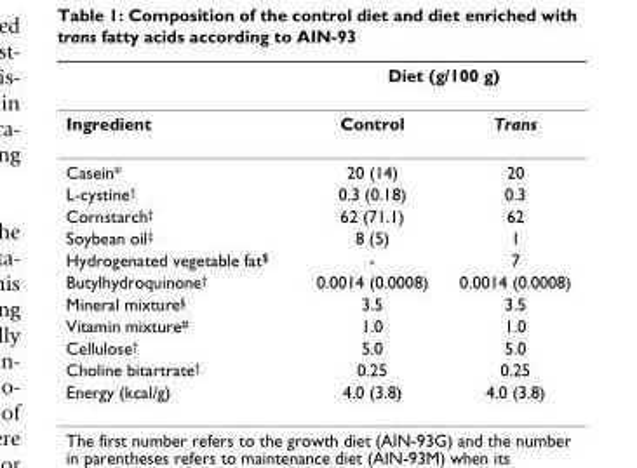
<table><thead><tr><td rowspan="2">Ingredient</td><td colspan="2">Diet (g/100 g)</td></tr><tr><td>Control</td><td>Trans</td></tr></thead><tbody><tr><td>Casein*</td><td>20 (14)</td><td>20</td></tr><tr><td>L-cystine<sup>†</sup></td><td>0.3 (0.18)</td><td>0.3</td></tr><tr><td>Cornstarch<sup>†</sup></td><td>62 (71.1)</td><td>62</td></tr><tr><td>Soybean oil<sup>‡</sup></td><td>8 (5)</td><td>1</td></tr><tr><td>Hydrogenated vegetable fat<sup>$</sup></td><td>-</td><td>7</td></tr><tr><td>Butylhydroquinone<sup>†</sup></td><td>0.0014 (0.0008)</td><td>0.0014 (0.0008)</td></tr><tr><td>Mineral mixture<sup>§</sup></td><td>3.5</td><td>3.5</td></tr><tr><td>Vitamin mixture<sup>#</sup></td><td>1.0</td><td>1.0</td></tr><tr><td>Cellulose<sup>†</sup></td><td>5.0</td><td>5.0</td></tr><tr><td>Choline bitartrate<sup>†</sup></td><td>0.25</td><td>0.25</td></tr><tr><td>Energy (kcal/g)</td><td>4.0 (3.8)</td><td>4.0 (3.8)</td></tr></tbody></table>